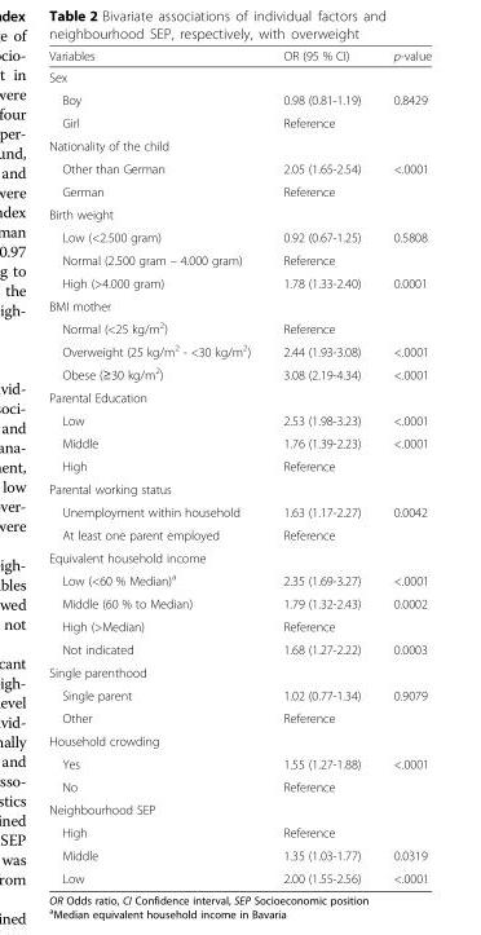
<table><thead><tr><td>Variables</td><td>OR (95 % CI)</td><td>p-value</td></tr></thead><tbody><tr><td colspan="3">Sex</td></tr><tr><td>Boy</td><td>0.98 (0.81-1.19)</td><td>0.8429</td></tr><tr><td>Girl</td><td>Reference</td><td></td></tr><tr><td colspan="3">Nationality of the child</td></tr><tr><td>Other than German</td><td>2.05 (1.65-2.54)</td><td>&lt;.0001</td></tr><tr><td>German</td><td>Reference</td><td></td></tr><tr><td colspan="3">Birth weight</td></tr><tr><td>Low (&lt;2.500 gram)</td><td>0.92 (0.67-1.25)</td><td>0.5808</td></tr><tr><td>Normal (2.500 gram – 4.000 gram)</td><td>Reference</td><td></td></tr><tr><td>High (&gt;4.000 gram)</td><td>1.78 (1.33-2.40)</td><td>0.0001</td></tr><tr><td colspan="3">BMI mother</td></tr><tr><td>Normal (&lt;25 kg/m<sup>2</sup>)</td><td>Reference</td><td></td></tr><tr><td>Overweight (25 kg/m<sup>2</sup> - &lt;30 kg/m<sup>2</sup>)</td><td>2.44 (1.93-3.08)</td><td>&lt;.0001</td></tr><tr><td>Obese (≥30 kg/m<sup>2</sup>)</td><td>3.08 (2.19-4.34)</td><td>&lt;.0001</td></tr><tr><td colspan="3">Parental Education</td></tr><tr><td>Low</td><td>2.53 (1.98-3.23)</td><td>&lt;.0001</td></tr><tr><td>Middle</td><td>1.76 (1.39-2.23)</td><td>&lt;.0001</td></tr><tr><td>High</td><td>Reference</td><td></td></tr><tr><td colspan="3">Parental working status</td></tr><tr><td>Unemployment within household</td><td>1.63 (1.17-2.27)</td><td>0.0042</td></tr><tr><td>At least one parent employed</td><td>Reference</td><td></td></tr><tr><td colspan="3">Equivalent household income</td></tr><tr><td>Low (&lt;60 % Median)<sup>a</sup></td><td>2.35 (1.69-3.27)</td><td>&lt;.0001</td></tr><tr><td>Middle (60 % to Median)</td><td>1.79 (1.32-2.43)</td><td>0.0002</td></tr><tr><td>High (&gt;Median)</td><td>Reference</td><td></td></tr><tr><td>Not indicated</td><td>1.68 (1.27-2.22)</td><td>0.0003</td></tr><tr><td colspan="3">Single parenthood</td></tr><tr><td>Single parent</td><td>1.02 (0.77-1.34)</td><td>0.9079</td></tr><tr><td>Other</td><td>Reference</td><td></td></tr><tr><td colspan="3">Household crowding</td></tr><tr><td>Yes</td><td>1.55 (1.27-1.88)</td><td>&lt;.0001</td></tr><tr><td>No</td><td>Reference</td><td></td></tr><tr><td colspan="3">Neighbourhood SEP</td></tr><tr><td>High</td><td>Reference</td><td></td></tr><tr><td>Middle</td><td>1.35 (1.03-1.77)</td><td>0.0319</td></tr><tr><td>Low</td><td>2.00 (1.55-2.56)</td><td>&lt;.0001</td></tr></tbody></table>